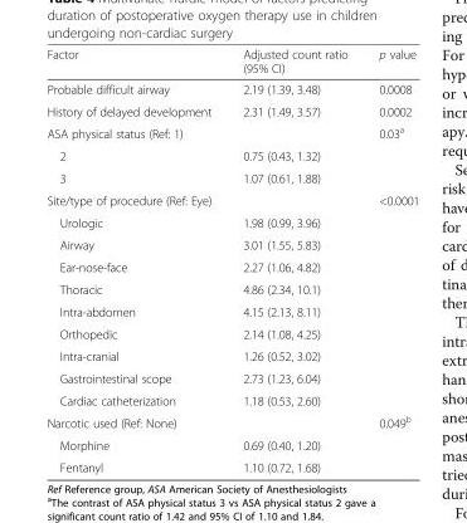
<table><thead><tr><td>Factor</td><td>Adjusted count ratio (95% CI)</td><td>p value</td></tr></thead><tbody><tr><td>Probable difficult airway</td><td>2.19 (1.39, 3.48)</td><td>0.0008</td></tr><tr><td>History of delayed development</td><td>2.31 (1.49, 3.57)</td><td>0.0002</td></tr><tr><td colspan="2">ASA physical status (Ref: 1)</td><td rowspan="3">0.03<sup>a</sup></td></tr><tr><td>2</td><td>0.75 (0.43, 1.32)</td></tr><tr><td>3</td><td>1.07 (0.61, 1.88)</td></tr><tr><td colspan="2">Site/type of procedure (Ref: Eye)</td><td rowspan="10">&lt;0.0001</td></tr><tr><td>Urologic</td><td>1.98 (0.99, 3.96)</td></tr><tr><td>Airway</td><td>3.01 (1.55, 5.83)</td></tr><tr><td>Ear-nose-face</td><td>2.27 (1.06, 4.82)</td></tr><tr><td>Thoracic</td><td>4.86 (2.34, 10.1)</td></tr><tr><td>Intra-abdomen</td><td>4.15 (2.13, 8.11)</td></tr><tr><td>Orthopedic</td><td>2.14 (1.08, 4.25)</td></tr><tr><td>Intra-cranial</td><td>1.26 (0.52, 3.02)</td></tr><tr><td>Gastrointestinal scope</td><td>2.73 (1.23, 6.04)</td></tr><tr><td>Cardiac catheterization</td><td>1.18 (0.53, 2.60)</td></tr><tr><td colspan="2">Narcotic used (Ref: None)</td><td rowspan="3">0.049<sup>b</sup></td></tr><tr><td>Morphine</td><td>0.69 (0.40, 1.20)</td></tr><tr><td>Fentanyl</td><td>1.10 (0.72, 1.68)</td></tr></tbody></table>